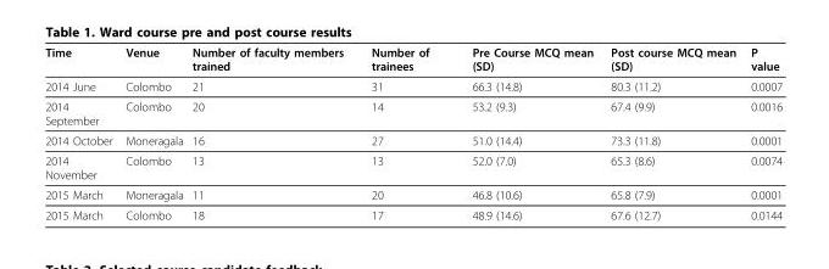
<table><thead><tr><td>Time</td><td>Venue</td><td>Number of faculty members trained</td><td>Number of trainees</td><td>Pre Course MCQ mean (SD)</td><td>Post course MCQ mean (SD)</td><td>P value</td></tr></thead><tbody><tr><td>2014 June</td><td>Colombo</td><td>21</td><td>31</td><td>66.3 (14.8)</td><td>80.3 (11.2)</td><td>0.0007</td></tr><tr><td>2014 September</td><td>Colombo</td><td>20</td><td>14</td><td>53.2 (9.3)</td><td>67.4 (9.9)</td><td>0.0016</td></tr><tr><td>2014 October</td><td>Moneragala</td><td>16</td><td>27</td><td>51.0 (14.4)</td><td>73.3 (11.8)</td><td>0.0001</td></tr><tr><td>2014 November</td><td>Colombo</td><td>13</td><td>13</td><td>52.0 (7.0)</td><td>65.3 (8.6)</td><td>0.0074</td></tr><tr><td>2015 March</td><td>Moneragala</td><td>11</td><td>20</td><td>46.8 (10.6)</td><td>65.8 (7.9)</td><td>0.0001</td></tr><tr><td>2015 March</td><td>Colombo</td><td>18</td><td>17</td><td>48.9 (14.6)</td><td>67.6 (12.7)</td><td>0.0144</td></tr></tbody></table>